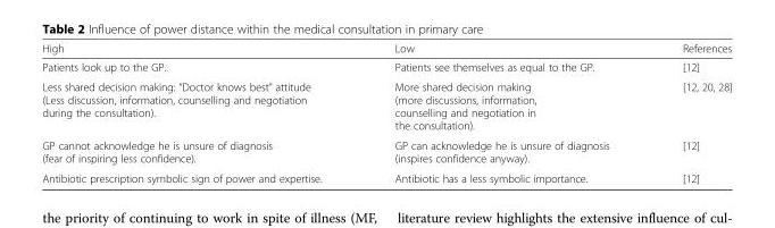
<table><thead><tr><td>High</td><td>Low</td><td>References</td></tr></thead><tbody><tr><td>Patients look up to the GP.</td><td>Patients see themselves as equal to the GP.</td><td>[12]</td></tr><tr><td>Less shared decision making: “Doctor knows best” attitude (Less discussion, information, counselling and negotiation during the consultation).</td><td>More shared decision making (more discussions, information, counselling and negotiation in the consultation).</td><td>[12, 20, 28]</td></tr><tr><td>GP cannot acknowledge he is unsure of diagnosis (fear of inspiring less confidence).</td><td>GP can acknowledge he is unsure of diagnosis (inspires confidence anyway).</td><td>[12]</td></tr><tr><td>Antibiotic prescription symbolic sign of power and expertise.</td><td>Antibiotic has a less symbolic importance.</td><td>[12]</td></tr></tbody></table>